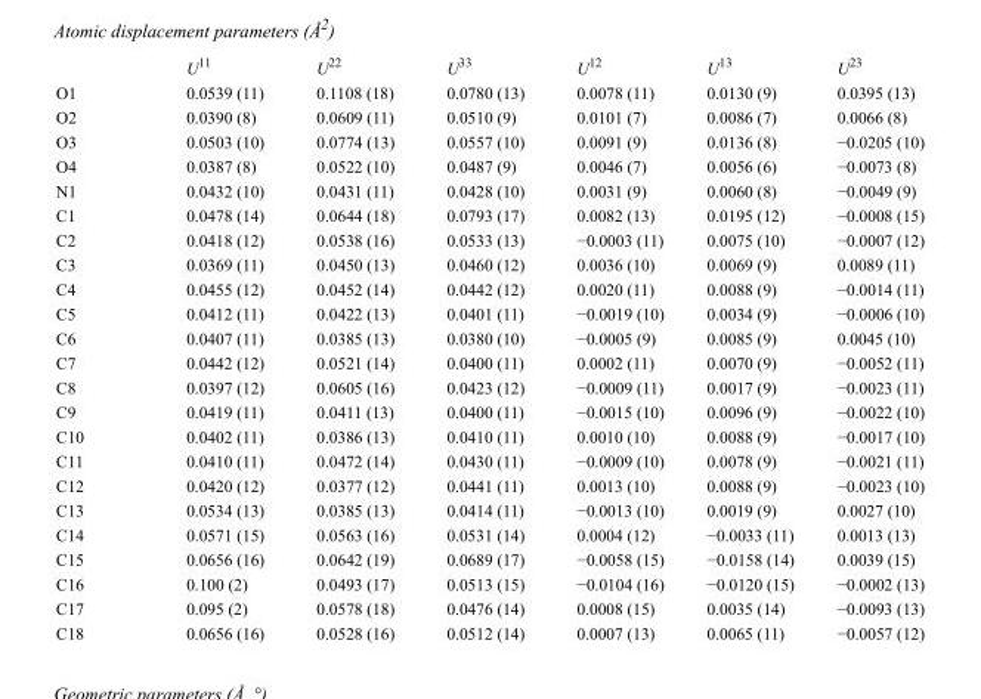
<table><thead><tr><td></td><td>U<sup>11</sup></td><td>U<sup>22</sup></td><td>U<sup>33</sup></td><td>U<sup>12</sup></td><td>U<sup>13</sup></td><td>U<sup>23</sup></td></tr></thead><tbody><tr><td>O1</td><td>0.0539 (11)</td><td>0.1108 (18)</td><td>0.0780 (13)</td><td>0.0078 (11)</td><td>0.0130 (9)</td><td>0.0395 (13)</td></tr><tr><td>O2</td><td>0.0390 (8)</td><td>0.0609 (11)</td><td>0.0510 (9)</td><td>0.0101 (7)</td><td>0.0086 (7)</td><td>0.0066 (8)</td></tr><tr><td>O3</td><td>0.0503 (10)</td><td>0.0774 (13)</td><td>0.0557 (10)</td><td>0.0091 (9)</td><td>0.0136 (8)</td><td>−0.0205 (10)</td></tr><tr><td>O4</td><td>0.0387 (8)</td><td>0.0522 (10)</td><td>0.0487 (9)</td><td>0.0046 (7)</td><td>0.0056 (6)</td><td>−0.0073 (8)</td></tr><tr><td>N1</td><td>0.0432 (10)</td><td>0.0431 (11)</td><td>0.0428 (10)</td><td>0.0031 (9)</td><td>0.0060 (8)</td><td>−0.0049 (9)</td></tr><tr><td>C1</td><td>0.0478 (14)</td><td>0.0644 (18)</td><td>0.0793 (17)</td><td>0.0082 (13)</td><td>0.0195 (12)</td><td>−0.0008 (15)</td></tr><tr><td>C2</td><td>0.0418 (12)</td><td>0.0538 (16)</td><td>0.0533 (13)</td><td>−0.0003 (11)</td><td>0.0075 (10)</td><td>−0.0007 (12)</td></tr><tr><td>C3</td><td>0.0369 (11)</td><td>0.0450 (13)</td><td>0.0460 (12)</td><td>0.0036 (10)</td><td>0.0069 (9)</td><td>0.0089 (11)</td></tr><tr><td>C4</td><td>0.0455 (12)</td><td>0.0452 (14)</td><td>0.0442 (12)</td><td>0.0020 (11)</td><td>0.0088 (9)</td><td>−0.0014 (11)</td></tr><tr><td>C5</td><td>0.0412 (11)</td><td>0.0422 (13)</td><td>0.0401 (11)</td><td>−0.0019 (10)</td><td>0.0034 (9)</td><td>−0.0006 (10)</td></tr><tr><td>C6</td><td>0.0407 (11)</td><td>0.0385 (13)</td><td>0.0380 (10)</td><td>−0.0005 (9)</td><td>0.0085 (9)</td><td>0.0045 (10)</td></tr><tr><td>C7</td><td>0.0442 (12)</td><td>0.0521 (14)</td><td>0.0400 (11)</td><td>0.0002 (11)</td><td>0.0070 (9)</td><td>−0.0052 (11)</td></tr><tr><td>C8</td><td>0.0397 (12)</td><td>0.0605 (16)</td><td>0.0423 (12)</td><td>−0.0009 (11)</td><td>0.0017 (9)</td><td>−0.0023 (11)</td></tr><tr><td>C9</td><td>0.0419 (11)</td><td>0.0411 (13)</td><td>0.0400 (11)</td><td>−0.0015 (10)</td><td>0.0096 (9)</td><td>−0.0022 (10)</td></tr><tr><td>C10</td><td>0.0402 (11)</td><td>0.0386 (13)</td><td>0.0410 (11)</td><td>0.0010 (10)</td><td>0.0088 (9)</td><td>−0.0017 (10)</td></tr><tr><td>C11</td><td>0.0410 (11)</td><td>0.0472 (14)</td><td>0.0430 (11)</td><td>−0.0009 (10)</td><td>0.0078 (9)</td><td>−0.0021 (11)</td></tr><tr><td>C12</td><td>0.0420 (12)</td><td>0.0377 (12)</td><td>0.0441 (11)</td><td>0.0013 (10)</td><td>0.0088 (9)</td><td>−0.0023 (10)</td></tr><tr><td>C13</td><td>0.0534 (13)</td><td>0.0385 (13)</td><td>0.0414 (11)</td><td>−0.0013 (10)</td><td>0.0019 (9)</td><td>0.0027 (10)</td></tr><tr><td>C14</td><td>0.0571 (15)</td><td>0.0563 (16)</td><td>0.0531 (14)</td><td>0.0004 (12)</td><td>−0.0033 (11)</td><td>0.0013 (13)</td></tr><tr><td>C15</td><td>0.0656 (16)</td><td>0.0642 (19)</td><td>0.0689 (17)</td><td>−0.0058 (15)</td><td>−0.0158 (14)</td><td>0.0039 (15)</td></tr><tr><td>C16</td><td>0.100 (2)</td><td>0.0493 (17)</td><td>0.0513 (15)</td><td>−0.0104 (16)</td><td>−0.0120 (15)</td><td>−0.0002 (13)</td></tr><tr><td>C17</td><td>0.095 (2)</td><td>0.0578 (18)</td><td>0.0476 (14)</td><td>0.0008 (15)</td><td>0.0035 (14)</td><td>−0.0093 (13)</td></tr><tr><td>C18</td><td>0.0656 (16)</td><td>0.0528 (16)</td><td>0.0512 (14)</td><td>0.0007 (13)</td><td>0.0065 (11)</td><td>−0.0057 (12)</td></tr></tbody></table>